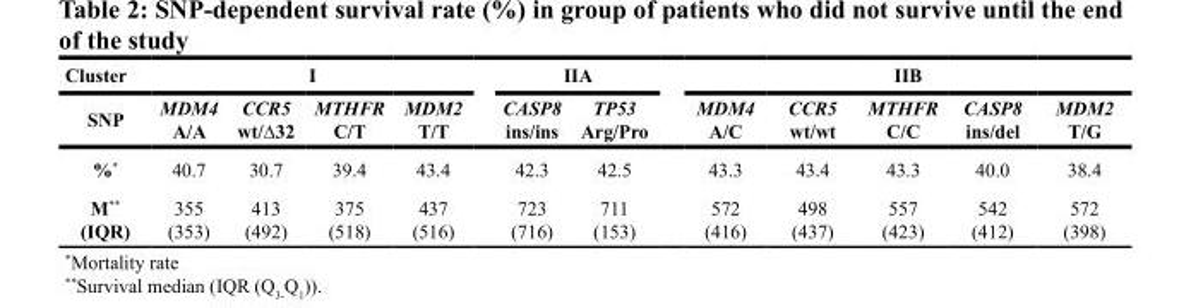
<table><thead><tr><td rowspan="2">Cluster SNP</td><td colspan="4">I</td><td colspan="2">IIA</td><td colspan="5">IIB</td></tr><tr><td>MDM4 A/A</td><td>CCR5 wt/∆32</td><td>MTHFR C/T</td><td>MDM2 T/T</td><td>CASP8 ins/ins</td><td>TP53 Arg/Pro</td><td>MDM4 A/C</td><td>CCR5 wt/wt</td><td>MTHFR C/C</td><td>CASP8 ins/del</td><td>MDM2 T/G</td></tr></thead><tbody><tr><td>%*</td><td>40.7</td><td>30.7</td><td>39.4</td><td>43.4</td><td>42.3</td><td>42.5</td><td>43.3</td><td>43.4</td><td>43.3</td><td>40.0</td><td>38.4</td></tr><tr><td>M** (IQR)</td><td>355 (353)</td><td>413 (492)</td><td>375 (518)</td><td>437 (516)</td><td>723 (716)</td><td>711 (153)</td><td>572 (416)</td><td>498 (437)</td><td>557 (423)</td><td>542 (412)</td><td>572 (398)</td></tr></tbody></table>